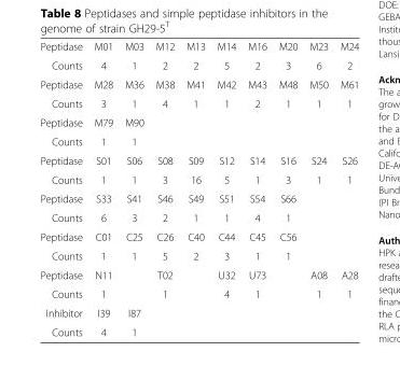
<table><tbody><tr><td>Peptidase</td><td>M01</td><td>M03</td><td>M12</td><td>M13</td><td>M14</td><td>M16</td><td>M20</td><td>M23</td><td>M24</td></tr><tr><td>Counts</td><td>4</td><td>1</td><td>2</td><td>2</td><td>5</td><td>2</td><td>3</td><td>6</td><td>2</td></tr><tr><td>Peptidase</td><td>M28</td><td>M36</td><td>M38</td><td>M41</td><td>M42</td><td>M43</td><td>M48</td><td>M50</td><td>M61</td></tr><tr><td>Counts</td><td>3</td><td>1</td><td>4</td><td>1</td><td>1</td><td>2</td><td>1</td><td>1</td><td>1</td></tr><tr><td>Peptidase</td><td>M79</td><td>M90</td><td></td><td></td><td></td><td></td><td></td><td></td><td></td></tr><tr><td>Counts</td><td>1</td><td>1</td><td></td><td></td><td></td><td></td><td></td><td></td><td></td></tr><tr><td>Peptidase</td><td>S01</td><td>S06</td><td>S08</td><td>S09</td><td>S12</td><td>S14</td><td>S16</td><td>S24</td><td>S26</td></tr><tr><td>Counts</td><td>1</td><td>1</td><td>3</td><td>16</td><td>5</td><td>1</td><td>3</td><td>1</td><td>1</td></tr><tr><td>Peptidase</td><td>S33</td><td>S41</td><td>S46</td><td>S49</td><td>S51</td><td>S54</td><td>S66</td><td></td><td></td></tr><tr><td>Counts</td><td>6</td><td>3</td><td>2</td><td>1</td><td>1</td><td>4</td><td>1</td><td></td><td></td></tr><tr><td>Peptidase</td><td>C01</td><td>C25</td><td>C26</td><td>C40</td><td>C44</td><td>C45</td><td>C56</td><td></td><td></td></tr><tr><td>Counts</td><td>1</td><td>1</td><td>5</td><td>2</td><td>3</td><td>1</td><td>1</td><td></td><td></td></tr><tr><td>Peptidase</td><td>N11</td><td></td><td>T02</td><td></td><td>U32</td><td>U73</td><td></td><td>A08</td><td>A28</td></tr><tr><td>Counts</td><td>1</td><td></td><td>1</td><td></td><td>4</td><td>1</td><td></td><td>1</td><td>1</td></tr><tr><td>Inhibitor</td><td>I39</td><td>I87</td><td></td><td></td><td></td><td></td><td></td><td></td><td></td></tr><tr><td>Counts</td><td>4</td><td>1</td><td></td><td></td><td></td><td></td><td></td><td></td><td></td></tr></tbody></table>